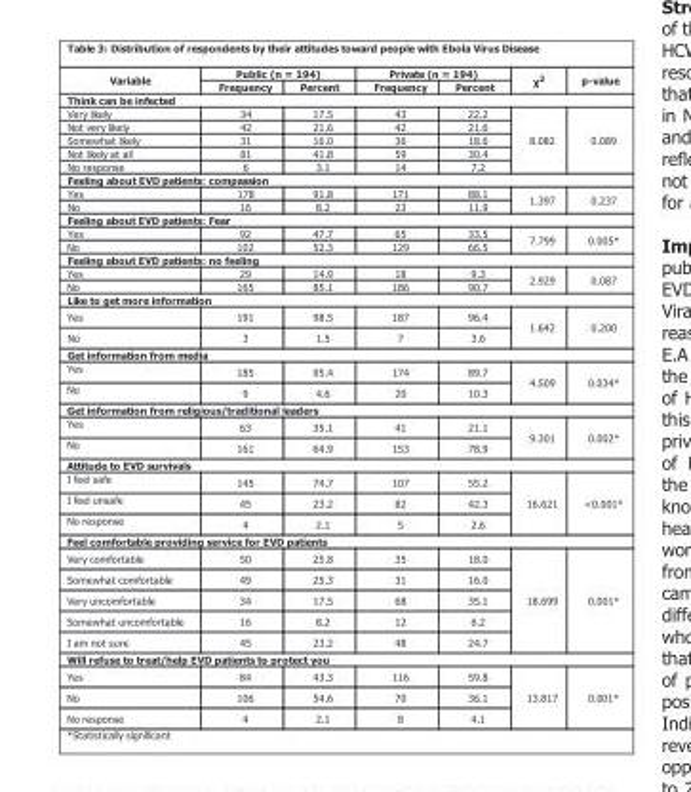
<table><thead><tr><td rowspan="2">Variable</td><td colspan="2">Public (n = 194)</td><td colspan="2">Private (n = 194)</td><td rowspan="2">χ<sup>2</sup></td><td rowspan="2">pvalue</td></tr><tr><td>Frequency</td><td>Percent</td><td>Frequency</td><td>Percent</td></tr></thead><tbody><tr><td colspan="7">Think can be infected</td></tr><tr><td>Very likely</td><td>34</td><td>17.5</td><td>43</td><td>22.2</td><td rowspan="5">8.082</td><td rowspan="5">0.089</td></tr><tr><td>Not very likely</td><td>42</td><td>21.6</td><td>42</td><td>21.6</td></tr><tr><td>Somewhat likely</td><td>31</td><td>16.0</td><td>36</td><td>18.6</td></tr><tr><td>Not likely at all</td><td>81</td><td>41.8</td><td>59</td><td>30.4</td></tr><tr><td>No response</td><td>6</td><td>3.1</td><td>14</td><td>7.2</td></tr><tr><td colspan="7">Feeling about EVD patients: compassion</td></tr><tr><td>Yes</td><td>178</td><td>91.8</td><td>171</td><td>88.1</td><td rowspan="2">1.397</td><td rowspan="2">0.237</td></tr><tr><td>No</td><td>16</td><td>8.2</td><td>23</td><td>11.9</td></tr><tr><td colspan="7">Feeling about EVD patients: Fear</td></tr><tr><td>Yes</td><td>92</td><td>47.7</td><td>65</td><td>33.5</td><td rowspan="2">7.799</td><td rowspan="2">0.005*</td></tr><tr><td>No</td><td>102</td><td>52.3</td><td>129</td><td>66.5</td></tr><tr><td colspan="7">Feeling about EVD patients: no feeling</td></tr><tr><td>Yes</td><td>29</td><td>14.9</td><td>18</td><td>9.3</td><td rowspan="2">2.929</td><td rowspan="2">0.087</td></tr><tr><td>No</td><td>165</td><td>85.1</td><td>186</td><td>90.7</td></tr><tr><td colspan="7">Like to get more information</td></tr><tr><td>Yes</td><td>191</td><td>98.5</td><td>187</td><td>96.4</td><td rowspan="2">1.642</td><td rowspan="2">0.200</td></tr><tr><td>No</td><td>3</td><td>1.5</td><td>7</td><td>3.6</td></tr><tr><td colspan="7">Get information from media</td></tr><tr><td>Yes</td><td>185</td><td>95.4</td><td>174</td><td>89.7</td><td rowspan="2">4.509</td><td rowspan="2">0.034*</td></tr><tr><td>No</td><td>9</td><td>4.6</td><td>20</td><td>10.3</td></tr><tr><td colspan="7">Get information from religious/traditional leaders</td></tr><tr><td>Yes</td><td>63</td><td>35.1</td><td>41</td><td>21.1</td><td rowspan="2">9.301</td><td rowspan="2">0.002*</td></tr><tr><td>No</td><td>161</td><td>64.9</td><td>153</td><td>78.9</td></tr><tr><td colspan="7">Attitude to EVD survivals</td></tr><tr><td>I feel safe</td><td>145</td><td>74.7</td><td>107</td><td>55.2</td><td rowspan="3">16.621</td><td rowspan="3">&lt;0.001*</td></tr><tr><td>I feel unsafe</td><td>45</td><td>23.2</td><td>82</td><td>42.3</td></tr><tr><td>No response</td><td>4</td><td>2.1</td><td>5</td><td>2.6</td></tr><tr><td colspan="7">Feel comfortable providing service for EVD patients</td></tr><tr><td>Very comfortable</td><td>50</td><td>25.8</td><td>35</td><td>18.0</td><td rowspan="5">18.699</td><td rowspan="5">0.001*</td></tr><tr><td>Somewhat comfortable</td><td>49</td><td>25.3</td><td>31</td><td>16.0</td></tr><tr><td>Very uncomfortable</td><td>34</td><td>17.5</td><td>68</td><td>35.1</td></tr><tr><td>Somewhat uncomfortable</td><td>16</td><td>8.2</td><td>12</td><td>6.2</td></tr><tr><td>I am not sure</td><td>45</td><td>23.2</td><td>48</td><td>24.7</td></tr><tr><td colspan="7">Will refuse to treat/help EVD patients to protect you</td></tr><tr><td>Yes</td><td>84</td><td>43.3</td><td>116</td><td>59.8</td><td rowspan="3">13.817</td><td rowspan="3">0.001*</td></tr><tr><td>No</td><td>106</td><td>54.6</td><td>70</td><td>36.1</td></tr><tr><td>No response</td><td>4</td><td>2.1</td><td>8</td><td>4.1</td></tr></tbody></table>